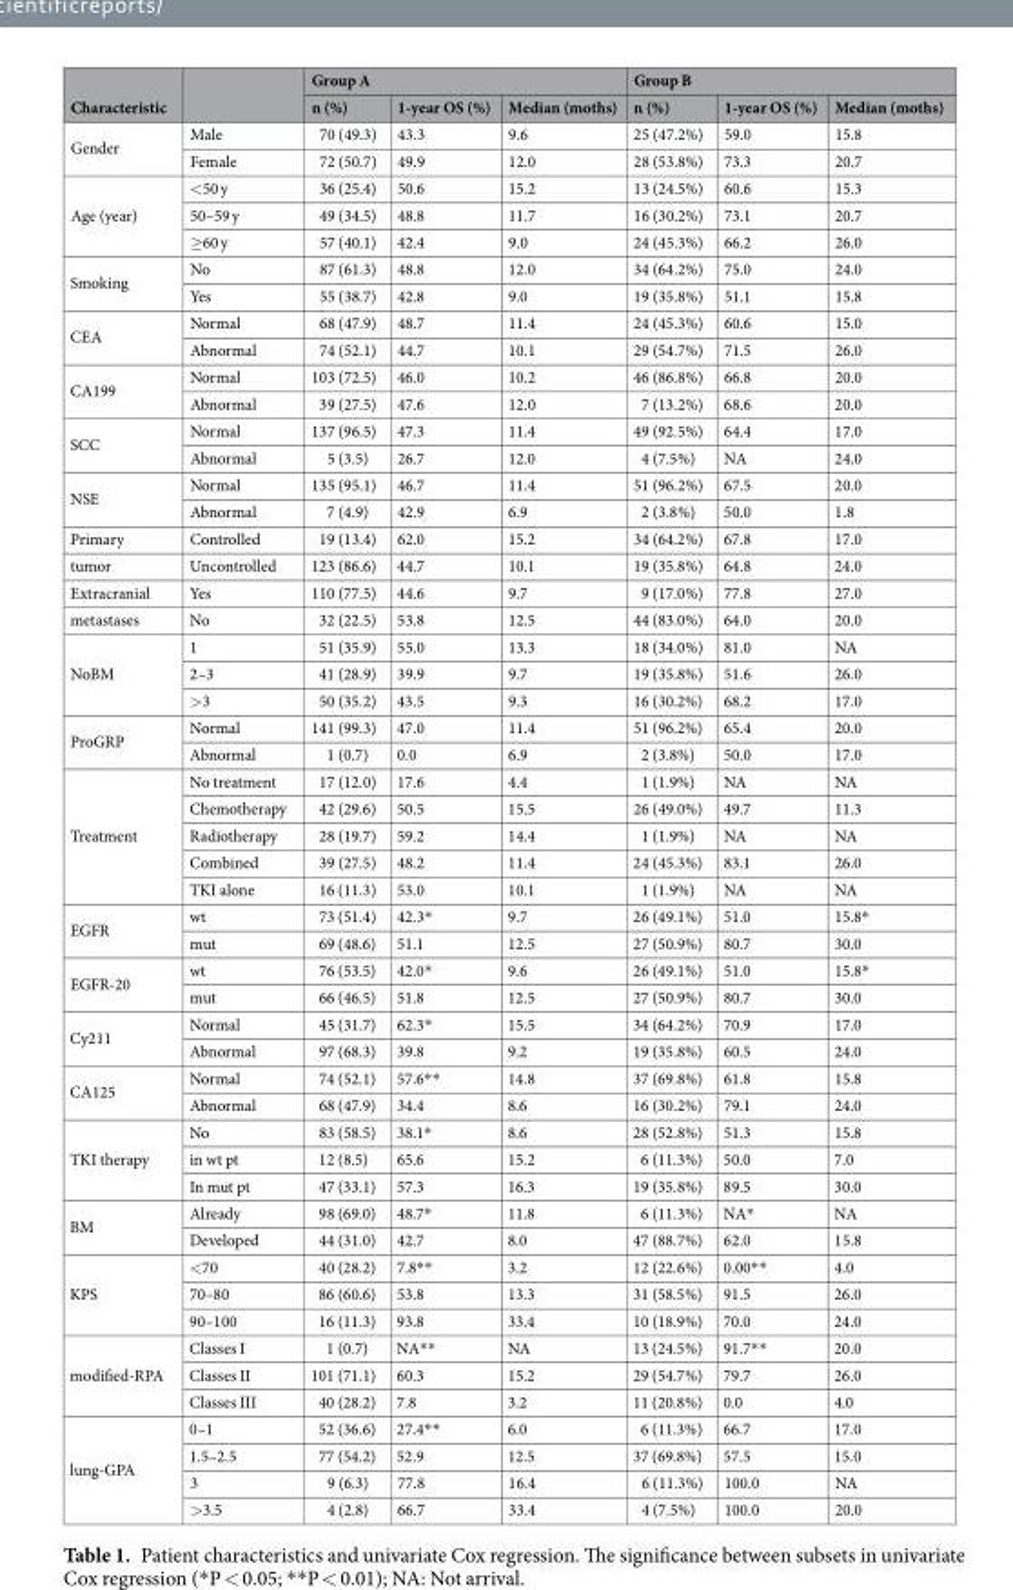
<table><thead><tr><td rowspan="2">Characteristic</td><td rowspan="2"></td><td colspan="3">Group A</td><td colspan="3">Group B</td></tr><tr><td>n (%)</td><td>1-year OS (%)</td><td>Median (moths)</td><td>n (%)</td><td>1-year OS (%)</td><td>Median (moths)</td></tr></thead><tbody><tr><td rowspan="2">Gender</td><td>Male</td><td>70 (49.3)</td><td>43.3</td><td>9.6</td><td>25 (47.2%)</td><td>59.0</td><td>15.8</td></tr><tr><td>Female</td><td>72 (50.7)</td><td>49.9</td><td>12.0</td><td>28 (53.8%)</td><td>73.3</td><td>20.7</td></tr><tr><td rowspan="3">Age (year)</td><td>&lt;50 y</td><td>36 (25.4)</td><td>50.6</td><td>15.2</td><td>13 (24.5%)</td><td>60.6</td><td>15.3</td></tr><tr><td>50–59 y</td><td>49 (34.5)</td><td>48.8</td><td>11.7</td><td>16 (30.2%)</td><td>73.1</td><td>20.7</td></tr><tr><td>≥60 y</td><td>57 (40.1)</td><td>42.4</td><td>9.0</td><td>24 (45.3%)</td><td>66.2</td><td>26.0</td></tr><tr><td rowspan="2">Smoking</td><td>No</td><td>87 (61.3)</td><td>48.8</td><td>12.0</td><td>34 (64.2%)</td><td>75.0</td><td>24.0</td></tr><tr><td>Yes</td><td>55 (38.7)</td><td>42.8</td><td>9.0</td><td>19 (35.8%)</td><td>51.1</td><td>15.8</td></tr><tr><td rowspan="2">CEA</td><td>Normal</td><td>68 (47.9)</td><td>48.7</td><td>11.4</td><td>24 (45.3%)</td><td>60.6</td><td>15.0</td></tr><tr><td>Abnormal</td><td>74 (52.1)</td><td>44.7</td><td>10.1</td><td>29 (54.7%)</td><td>71.5</td><td>26.0</td></tr><tr><td rowspan="2">CA199</td><td>Normal</td><td>103 (72.5)</td><td>46.0</td><td>10.2</td><td>46 (86.8%)</td><td>66.8</td><td>20.0</td></tr><tr><td>Abnormal</td><td>39 (27.5)</td><td>47.6</td><td>12.0</td><td>7 (13.2%)</td><td>68.6</td><td>20.0</td></tr><tr><td rowspan="2">SCC</td><td>Normal</td><td>137 (96.5)</td><td>47.3</td><td>11.4</td><td>49 (92.5%)</td><td>64.4</td><td>17.0</td></tr><tr><td>Abnormal</td><td>5 (3.5)</td><td>26.7</td><td>12.0</td><td>4 (7.5%)</td><td>NA</td><td>24.0</td></tr><tr><td rowspan="2">NSE</td><td>Normal</td><td>135 (95.1)</td><td>46.7</td><td>11.4</td><td>51 (96.2%)</td><td>67.5</td><td>20.0</td></tr><tr><td>Abnormal</td><td>7 (4.9)</td><td>42.9</td><td>6.9</td><td>2 (3.8%)</td><td>50.0</td><td>1.8</td></tr><tr><td>Primary</td><td>Controlled</td><td>19 (13.4)</td><td>62.0</td><td>15.2</td><td>34 (64.2%)</td><td>67.8</td><td>17.0</td></tr><tr><td>tumor</td><td>Uncontrolled</td><td>123 (86.6)</td><td>44.7</td><td>10.1</td><td>19 (35.8%)</td><td>64.8</td><td>24.0</td></tr><tr><td>Extracranial</td><td>Yes</td><td>110 (77.5)</td><td>44.6</td><td>9.7</td><td>9 (17.0%)</td><td>77.8</td><td>27.0</td></tr><tr><td>metastases</td><td>No</td><td>32 (22.5)</td><td>53.8</td><td>12.5</td><td>44 (83.0%)</td><td>64.0</td><td>20.0</td></tr><tr><td rowspan="3">NoBM</td><td>1</td><td>51 (35.9)</td><td>55.0</td><td>13.3</td><td>18 (34.0%)</td><td>81.0</td><td>NA</td></tr><tr><td>2–3</td><td>41 (28.9)</td><td>39.9</td><td>9.7</td><td>19 (35.8%)</td><td>51.6</td><td>26.0</td></tr><tr><td>&gt;3</td><td>50 (35.2)</td><td>43.5</td><td>9.3</td><td>16 (30.2%)</td><td>68.2</td><td>17.0</td></tr><tr><td rowspan="2">ProGRP</td><td>Normal</td><td>141 (99.3)</td><td>47.0</td><td>11.4</td><td>51 (96.2%)</td><td>65.4</td><td>20.0</td></tr><tr><td>Abnormal</td><td>1 (0.7)</td><td>0.0</td><td>6.9</td><td>2 (3.8%)</td><td>50.0</td><td>17.0</td></tr><tr><td rowspan="5">Treatment</td><td>No treatment</td><td>17 (12.0)</td><td>17.6</td><td>4.4</td><td>1 (1.9%)</td><td>NA</td><td>NA</td></tr><tr><td>Chemotherapy</td><td>42 (29.6)</td><td>50.5</td><td>15.5</td><td>26 (49.0%)</td><td>49.7</td><td>11.3</td></tr><tr><td>Radiotherapy</td><td>28 (19.7)</td><td>59.2</td><td>14.4</td><td>1 (1.9%)</td><td>NA</td><td>NA</td></tr><tr><td>Combined</td><td>39 (27.5)</td><td>48.2</td><td>11.4</td><td>24 (45.3%)</td><td>83.1</td><td>26.0</td></tr><tr><td>TKI alone</td><td>16 (11.3)</td><td>53.0</td><td>10.1</td><td>1 (1.9%)</td><td>NA</td><td>NA</td></tr><tr><td rowspan="2">EGFR</td><td>wt</td><td>73 (51.4)</td><td>42.3*</td><td>9.7</td><td>26 (49.1%)</td><td>51.0</td><td>15.8*</td></tr><tr><td>mut</td><td>69 (48.6)</td><td>51.1</td><td>12.5</td><td>27 (50.9%)</td><td>80.7</td><td>30.0</td></tr><tr><td rowspan="2">EGFR-20</td><td>wt</td><td>76 (53.5)</td><td>42.0*</td><td>9.6</td><td>26 (49.1%)</td><td>51.0</td><td>15.8*</td></tr><tr><td>mut</td><td>66 (46.5)</td><td>51.8</td><td>12.5</td><td>27 (50.9%)</td><td>80.7</td><td>30.0</td></tr><tr><td rowspan="2">Cy211</td><td>Normal</td><td>45 (31.7)</td><td>62.3*</td><td>15.5</td><td>34 (64.2%)</td><td>70.9</td><td>17.0</td></tr><tr><td>Abnormal</td><td>97 (68.3)</td><td>39.8</td><td>9.2</td><td>19 (35.8%)</td><td>60.5</td><td>24.0</td></tr><tr><td rowspan="2">CA125</td><td>Normal</td><td>74 (52.1)</td><td>57.6**</td><td>14.8</td><td>37 (69.8%)</td><td>61.8</td><td>15.8</td></tr><tr><td>Abnormal</td><td>68 (47.9)</td><td>34.4</td><td>8.6</td><td>16 (30.2%)</td><td>79.1</td><td>24.0</td></tr><tr><td rowspan="3">TKI therapy</td><td>No</td><td>83 (58.5)</td><td>38.1*</td><td>8.6</td><td>28 (52.8%)</td><td>51.3</td><td>15.8</td></tr><tr><td>in wt pt</td><td>12 (8.5)</td><td>65.6</td><td>15.2</td><td>6 (11.3%)</td><td>50.0</td><td>7.0</td></tr><tr><td>In mut pt</td><td>47 (33.1)</td><td>57.3</td><td>16.3</td><td>19 (35.8%)</td><td>89.5</td><td>30.0</td></tr><tr><td rowspan="2">BM</td><td>Already</td><td>98 (69.0)</td><td>48.7*</td><td>11.8</td><td>6 (11.3%)</td><td>NA*</td><td>NA</td></tr><tr><td>Developed</td><td>44 (31.0)</td><td>42.7</td><td>8.0</td><td>47 (88.7%)</td><td>62.0</td><td>15.8</td></tr><tr><td rowspan="3">KPS</td><td>&lt;70</td><td>40 (28.2)</td><td>7.8**</td><td>3.2</td><td>12 (22.6%)</td><td>0.00**</td><td>4.0</td></tr><tr><td>70–80</td><td>86 (60.6)</td><td>53.8</td><td>13.3</td><td>31 (58.5%)</td><td>91.5</td><td>26.0</td></tr><tr><td>90–100</td><td>16 (11.3)</td><td>93.8</td><td>33.4</td><td>10 (18.9%)</td><td>70.0</td><td>24.0</td></tr><tr><td rowspan="3">modified-RPA</td><td>Classes I</td><td>1 (0.7)</td><td>NA**</td><td>NA</td><td>13 (24.5%)</td><td>91.7**</td><td>20.0</td></tr><tr><td>Classes II</td><td>101 (71.1)</td><td>60.3</td><td>15.2</td><td>29 (54.7%)</td><td>79.7</td><td>26.0</td></tr><tr><td>Classes III</td><td>40 (28.2)</td><td>7.8</td><td>3.2</td><td>11 (20.8%)</td><td>0.0</td><td>4.0</td></tr><tr><td rowspan="4">lung-GPA</td><td>0–1</td><td>52 (36.6)</td><td>27.4**</td><td>6.0</td><td>6 (11.3%)</td><td>66.7</td><td>17.0</td></tr><tr><td>1.5–2.5</td><td>77 (54.2)</td><td>52.9</td><td>12.5</td><td>37 (69.8%)</td><td>57.5</td><td>15.0</td></tr><tr><td>3</td><td>9 (6.3)</td><td>77.8</td><td>16.4</td><td>6 (11.3%)</td><td>100.0</td><td>NA</td></tr><tr><td>&gt;3.5</td><td>4 (2.8)</td><td>66.7</td><td>33.4</td><td>4 (7.5%)</td><td>100.0</td><td>20.0</td></tr></tbody></table>